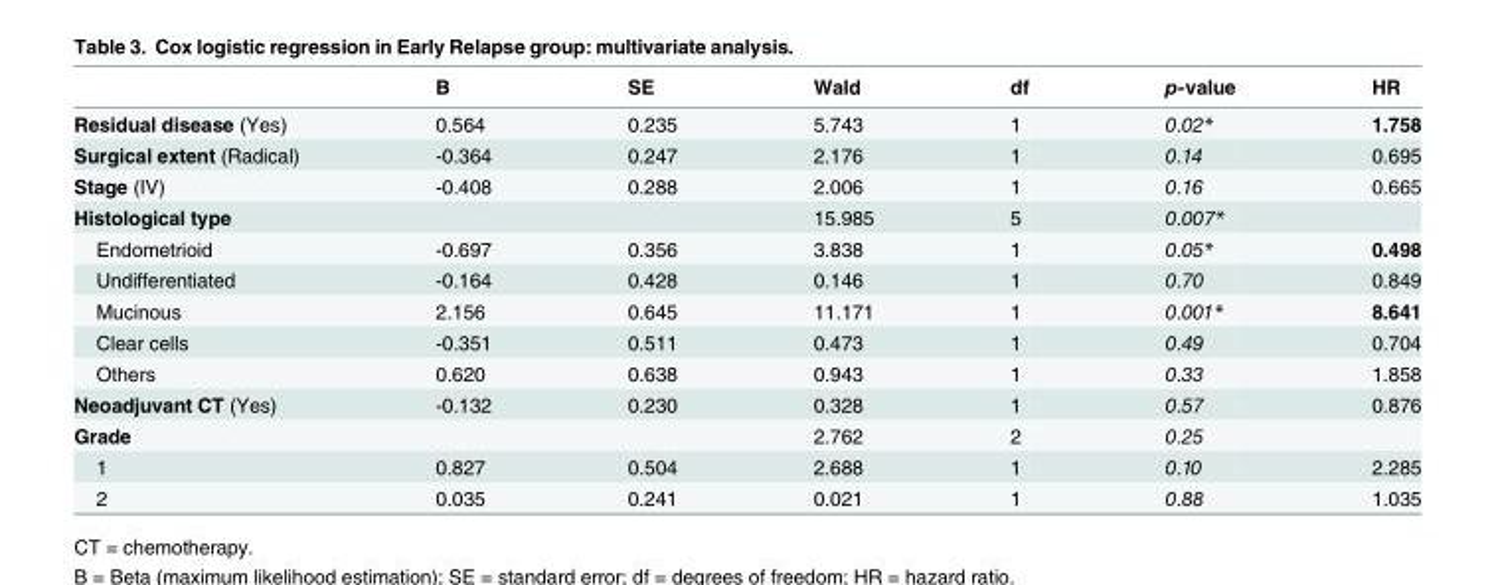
<table><thead><tr><td></td><td>B</td><td>SE</td><td>Wald</td><td>df</td><td>p-value</td><td>HR</td></tr></thead><tbody><tr><td>Residual disease (Yes)</td><td>0.564</td><td>0.235</td><td>5.743</td><td>1</td><td>0.02*</td><td>1.758</td></tr><tr><td>Surgical extent (Radical)</td><td>-0.364</td><td>0.247</td><td>2.176</td><td>1</td><td>0.14</td><td>0.695</td></tr><tr><td>Stage (IV)</td><td>-0.408</td><td>0.288</td><td>2.006</td><td>1</td><td>0.16</td><td>0.665</td></tr><tr><td>Histological type</td><td></td><td></td><td>15.985</td><td>5</td><td>0.007*</td><td></td></tr><tr><td>Endometrioid</td><td>-0.697</td><td>0.356</td><td>3.838</td><td>1</td><td>0.05*</td><td>0.498</td></tr><tr><td>Undifferentiated</td><td>-0.164</td><td>0.428</td><td>0.146</td><td>1</td><td>0.70</td><td>0.849</td></tr><tr><td>Mucinous</td><td>2.156</td><td>0.645</td><td>11.171</td><td>1</td><td>0.001*</td><td>8.641</td></tr><tr><td>Clear cells</td><td>-0.351</td><td>0.511</td><td>0.473</td><td>1</td><td>0.49</td><td>0.704</td></tr><tr><td>Others</td><td>0.620</td><td>0.638</td><td>0.943</td><td>1</td><td>0.33</td><td>1.858</td></tr><tr><td>Neoadjuvant CT (Yes)</td><td>-0.132</td><td>0.230</td><td>0.328</td><td>1</td><td>0.57</td><td>0.876</td></tr><tr><td>Grade</td><td></td><td></td><td>2.762</td><td>2</td><td>0.25</td><td></td></tr><tr><td>1</td><td>0.827</td><td>0.504</td><td>2.688</td><td>1</td><td>0.10</td><td>2.285</td></tr><tr><td>2</td><td>0.035</td><td>0.241</td><td>0.021</td><td>1</td><td>0.88</td><td>1.035</td></tr></tbody></table>